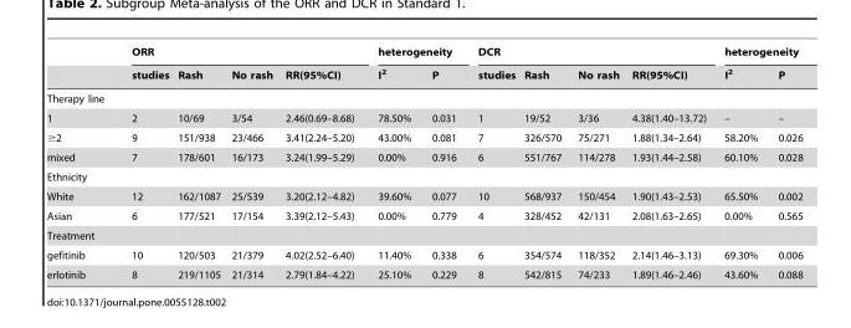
<table><thead><tr><td rowspan="2"></td><td colspan="4">ORR</td><td colspan="2">heterogeneity</td><td colspan="4">DCR</td><td colspan="2">heterogeneity</td></tr><tr><td>studies</td><td>Rash</td><td>No rash</td><td>RR(95%CI)</td><td>I<sup>2</sup></td><td>P</td><td>studies</td><td>Rash</td><td>No rash</td><td>RR(95%CI)</td><td>I<sup>2</sup></td><td>P</td></tr></thead><tbody><tr><td colspan="13">Therapy line</td></tr><tr><td>1</td><td>2</td><td>10/69</td><td>3/54</td><td>2.46(0.69–8.68)</td><td>78.50%</td><td>0.031</td><td>1</td><td>19/52</td><td>3/36</td><td>4.38(1.40–13.72)</td><td>–</td><td>–</td></tr><tr><td>≥2</td><td>9</td><td>151/938</td><td>23/466</td><td>3.41(2.24–5.20)</td><td>43.00%</td><td>0.081</td><td>7</td><td>326/570</td><td>75/271</td><td>1.88(1.34–2.64)</td><td>58.20%</td><td>0.026</td></tr><tr><td>mixed</td><td>7</td><td>178/601</td><td>16/173</td><td>3.24(1.99–5.29)</td><td>0.00%</td><td>0.916</td><td>6</td><td>551/767</td><td>114/278</td><td>1.93(1.44–2.58)</td><td>60.10%</td><td>0.028</td></tr><tr><td colspan="13">Ethnicity</td></tr><tr><td>White</td><td>12</td><td>162/1087</td><td>25/539</td><td>3.20(2.12–4.82)</td><td>39.60%</td><td>0.077</td><td>10</td><td>568/937</td><td>150/454</td><td>1.90(1.43–2.53)</td><td>65.50%</td><td>0.002</td></tr><tr><td>Asian</td><td>6</td><td>177/521</td><td>17/154</td><td>3.39(2.12–5.43)</td><td>0.00%</td><td>0.779</td><td>4</td><td>328/452</td><td>42/131</td><td>2.08(1.63–2.65)</td><td>0.00%</td><td>0.565</td></tr><tr><td colspan="13">Treatment</td></tr><tr><td>gefitinib</td><td>10</td><td>120/503</td><td>21/379</td><td>4.02(2.52–6.40)</td><td>11.40%</td><td>0.338</td><td>6</td><td>354/574</td><td>118/352</td><td>2.14(1.46–3.13)</td><td>69.30%</td><td>0.006</td></tr><tr><td>erlotinib</td><td>8</td><td>219/1105</td><td>21/314</td><td>2.79(1.84–4.22)</td><td>25.10%</td><td>0.229</td><td>8</td><td>542/815</td><td>74/233</td><td>1.89(1.46–2.46)</td><td>43.60%</td><td>0.088</td></tr></tbody></table>